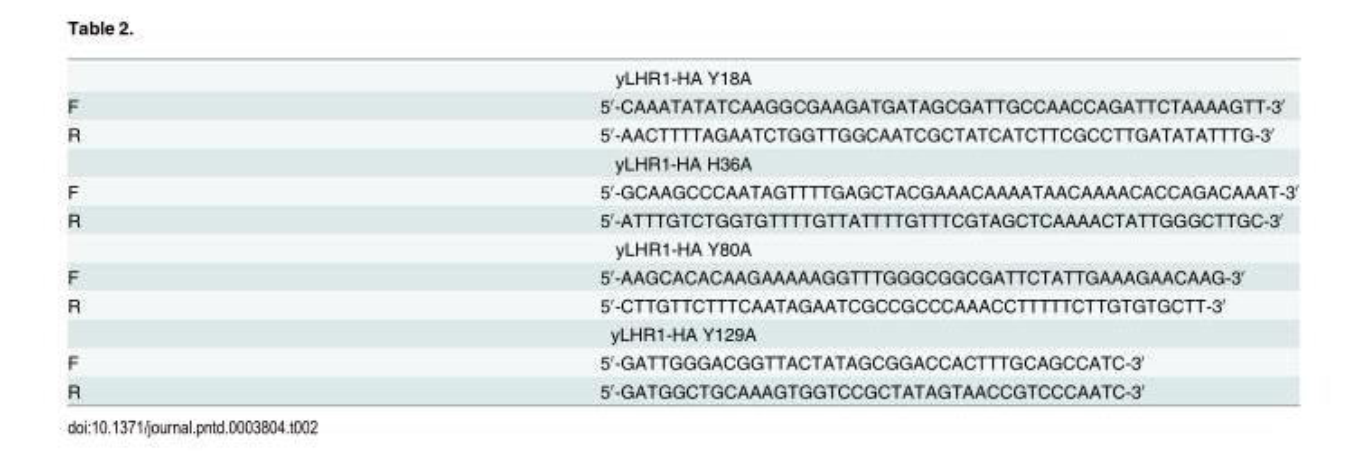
<table><tbody><tr><td colspan="2">yLHR1-HA Y18A</td></tr><tr><td>F</td><td>5ʹ-CAAATATATCAAGGCGAAGATGATAGCGATTGCCAACCAGATTCTAAAAGTT-3ʹ</td></tr><tr><td>R</td><td>5ʹ-AACTTTTAGAATCTGGTTGGCAATCGCTATCATCTTCGCCTTGATATATTTG-3ʹ</td></tr><tr><td colspan="2">yLHR1-HA H36A</td></tr><tr><td>F</td><td>5ʹ-GCAAGCCCAATAGTTTTGAGCTACGAAACAAAATAACAAAACACCAGACAAAT-3ʹ</td></tr><tr><td>R</td><td>5ʹ-ATTTGTCTGGTGTTTTGTTATTTTGTTTCGTAGCTCAAAACTATTGGGCTTGC-3ʹ</td></tr><tr><td colspan="2">yLHR1-HA Y80A</td></tr><tr><td>F</td><td>5ʹ-AAGCACACAAGAAAAAGGTTTGGGCGGCGATTCTATTGAAAGAACAAG-3ʹ</td></tr><tr><td>R</td><td>5ʹ-CTTGTTCTTTCAATAGAATCGCCGCCCAAACCTTTTTCTTGTGTGCTT-3ʹ</td></tr><tr><td colspan="2">yLHR1-HA Y129A</td></tr><tr><td>F</td><td>5ʹ-GATTGGGACGGTTACTATAGCGGACCACTTTGCAGCCATC-3ʹ</td></tr><tr><td>R</td><td>5ʹ-GATGGCTGCAAAGTGGTCCGCTATAGTAACCGTCCCAATC-3ʹ</td></tr></tbody></table>